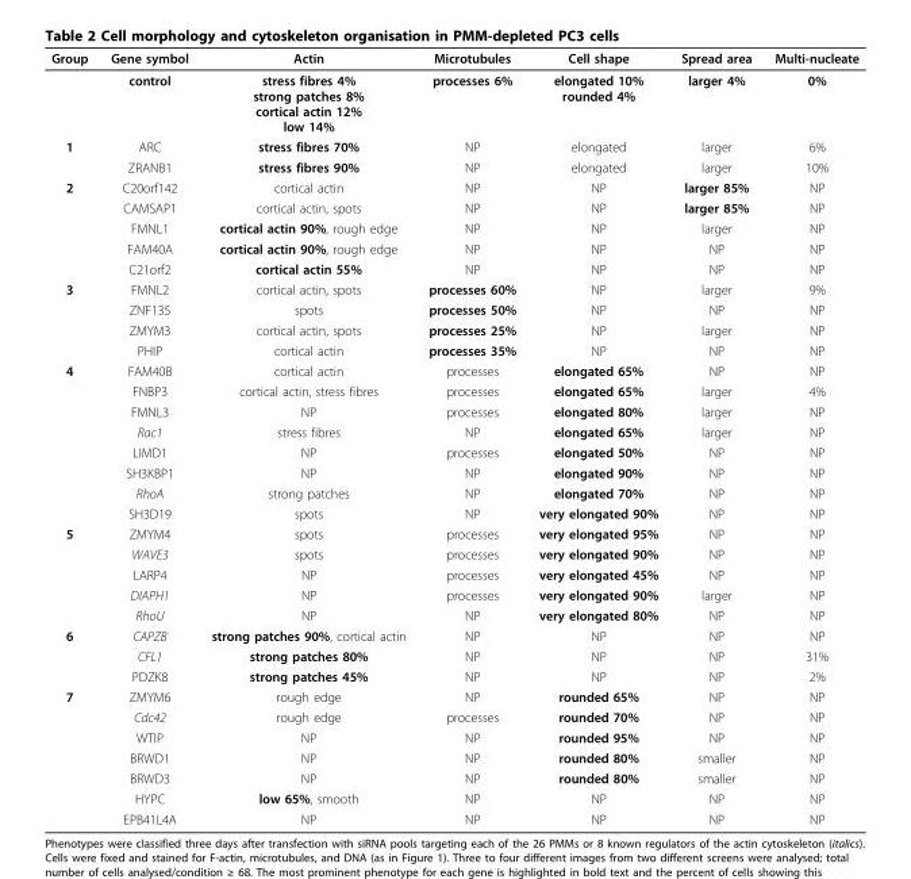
<table><thead><tr><td>Group</td><td>Gene symbol</td><td>Actin</td><td>Microtubules</td><td>Cell shape</td><td>Spread area</td><td>Multi-nucleate</td></tr></thead><tbody><tr><td></td><td>control</td><td>stress fibres 4% strong patches 8% cortical actin 12% low 14%</td><td>processes 6%</td><td>elongated 10% rounded 4%</td><td>larger 4%</td><td>0%</td></tr><tr><td rowspan="2">1</td><td>ARC</td><td>stress fibres 70%</td><td>NP</td><td>elongated</td><td>larger</td><td>6%</td></tr><tr><td>ZRANB1</td><td>stress fibres 90%</td><td>NP</td><td>elongated</td><td>larger</td><td>10%</td></tr><tr><td rowspan="5">2</td><td>C20orf142</td><td>cortical actin</td><td>NP</td><td>NP</td><td>larger 85%</td><td>NP</td></tr><tr><td>CAMSAP1</td><td>cortical actin, spots</td><td>NP</td><td>NP</td><td>larger 85%</td><td>NP</td></tr><tr><td>FMNL1</td><td>cortical actin 90%, rough edge</td><td>NP</td><td>NP</td><td>larger</td><td>NP</td></tr><tr><td>FAM40A</td><td>cortical actin 90%, rough edge</td><td>NP</td><td>NP</td><td>NP</td><td>NP</td></tr><tr><td>C21orf2</td><td>cortical actin 55%</td><td>NP</td><td>NP</td><td>NP</td><td>NP</td></tr><tr><td rowspan="4">3</td><td>FMNL2</td><td>cortical actin, spots</td><td>processes 60%</td><td>NP</td><td>larger</td><td>9%</td></tr><tr><td>ZNF135</td><td>spots</td><td>processes 50%</td><td>NP</td><td>NP</td><td>NP</td></tr><tr><td>ZMYM3</td><td>cortical actin, spots</td><td>processes 25%</td><td>NP</td><td>larger</td><td>NP</td></tr><tr><td>PHIP</td><td>cortical actin</td><td>processes 35%</td><td>NP</td><td>NP</td><td>NP</td></tr><tr><td rowspan="8">4</td><td>FAM40B</td><td>cortical actin</td><td>processes</td><td>elongated 65%</td><td>NP</td><td>NP</td></tr><tr><td>FNBP3</td><td>cortical actin, stress fibres</td><td>processes</td><td>elongated 65%</td><td>larger</td><td>4%</td></tr><tr><td>FMNL3</td><td>NP</td><td>processes</td><td>elongated 80%</td><td>larger</td><td>NP</td></tr><tr><td>Rac1</td><td>stress fibres</td><td>NP</td><td>elongated 65%</td><td>larger</td><td>NP</td></tr><tr><td>LIMD1</td><td>NP</td><td>processes</td><td>elongated 50%</td><td>NP</td><td>NP</td></tr><tr><td>SH3KBP1</td><td>NP</td><td>NP</td><td>elongated 90%</td><td>NP</td><td>NP</td></tr><tr><td>RhoA</td><td>strong patches</td><td>NP</td><td>elongated 70%</td><td>NP</td><td>NP</td></tr><tr><td>SH3D19</td><td>spots</td><td>NP</td><td>very elongated 90%</td><td>NP</td><td>NP</td></tr><tr><td rowspan="5">5</td><td>ZMYM4</td><td>spots</td><td>processes</td><td>very elongated 95%</td><td>NP</td><td>NP</td></tr><tr><td>WAVE3</td><td>spots</td><td>processes</td><td>very elongated 90%</td><td>NP</td><td>NP</td></tr><tr><td>LARP4</td><td>NP</td><td>processes</td><td>very elongated 45%</td><td>NP</td><td>NP</td></tr><tr><td>DIAPH1</td><td>NP</td><td>processes</td><td>very elongated 90%</td><td>larger</td><td>NP</td></tr><tr><td>RhoU</td><td>NP</td><td>NP</td><td>very elongated 80%</td><td>NP</td><td>NP</td></tr><tr><td rowspan="3">6</td><td>CAPZB</td><td>strong patches 90%, cortical actin</td><td>NP</td><td>NP</td><td>NP</td><td>NP</td></tr><tr><td>CFL1</td><td>strong patches 80%</td><td>NP</td><td>NP</td><td>NP</td><td>31%</td></tr><tr><td>PDZK8</td><td>strong patches 45%</td><td>NP</td><td>NP</td><td>NP</td><td>2%</td></tr><tr><td rowspan="7">7</td><td>ZMYM6</td><td>rough edge</td><td>NP</td><td>rounded 65%</td><td>NP</td><td>NP</td></tr><tr><td>Cdc42</td><td>rough edge</td><td>processes</td><td>rounded 70%</td><td>NP</td><td>NP</td></tr><tr><td>WTIP</td><td>NP</td><td>NP</td><td>rounded 95%</td><td>NP</td><td>NP</td></tr><tr><td>BRWD1</td><td>NP</td><td>NP</td><td>rounded 80%</td><td>smaller</td><td>NP</td></tr><tr><td>BRWD3</td><td>NP</td><td>NP</td><td>rounded 80%</td><td>smaller</td><td>NP</td></tr><tr><td>HYPC</td><td>low 65%, smooth</td><td>NP</td><td>NP</td><td>NP</td><td>NP</td></tr><tr><td>EPB41L4A</td><td>NP</td><td>NP</td><td>NP</td><td>NP</td><td>NP</td></tr></tbody></table>